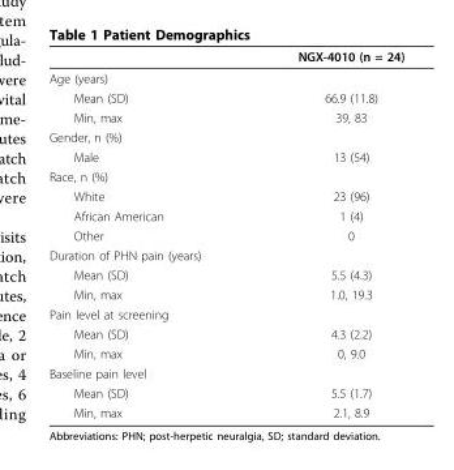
<table><thead><tr><td></td><td>NGX-4010 (n = 24)</td></tr></thead><tbody><tr><td colspan="2">Age (years)</td></tr><tr><td>Mean (SD)</td><td>66.9 (11.8)</td></tr><tr><td>Min, max</td><td>39, 83</td></tr><tr><td colspan="2">Gender, n (%)</td></tr><tr><td>Male</td><td>13 (54)</td></tr><tr><td colspan="2">Race, n (%)</td></tr><tr><td>White</td><td>23 (96)</td></tr><tr><td>African American</td><td>1 (4)</td></tr><tr><td>Other</td><td>0</td></tr><tr><td colspan="2">Duration of PHN pain (years)</td></tr><tr><td>Mean (SD)</td><td>5.5 (4.3)</td></tr><tr><td>Min, max</td><td>1.0, 19.3</td></tr><tr><td colspan="2">Pain level at screening</td></tr><tr><td>Mean (SD)</td><td>4.3 (2.2)</td></tr><tr><td>Min, max</td><td>0, 9.0</td></tr><tr><td colspan="2">Baseline pain level</td></tr><tr><td>Mean (SD)</td><td>5.5 (1.7)</td></tr><tr><td>Min, max</td><td>2.1, 8.9</td></tr></tbody></table>